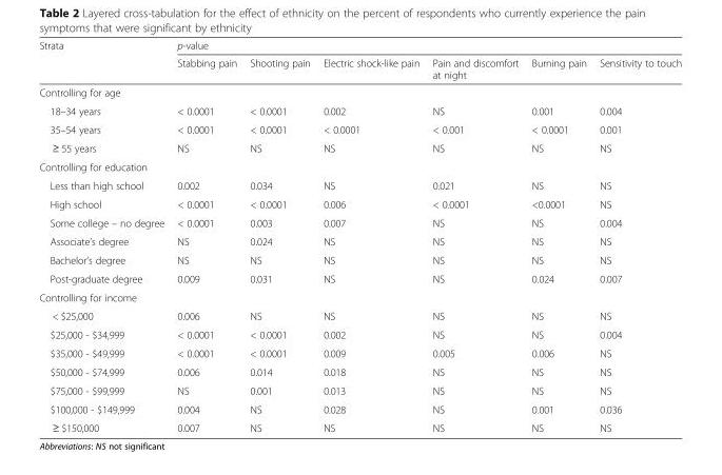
<table><thead><tr><td rowspan="2">Strata</td><td colspan="6">p-value</td></tr><tr><td>Stabbing pain</td><td>Shooting pain</td><td>Electric shock-like pain</td><td>Pain and discomfort at night</td><td>Burning pain</td><td>Sensitivity to touch</td></tr></thead><tbody><tr><td colspan="7">Controlling for age</td></tr><tr><td>18–34 years</td><td>&lt; 0.0001</td><td>&lt; 0.0001</td><td>0.002</td><td>NS</td><td>0.001</td><td>0.004</td></tr><tr><td>35–54 years</td><td>&lt; 0.0001</td><td>&lt; 0.0001</td><td>&lt; 0.0001</td><td>&lt; 0.001</td><td>&lt; 0.0001</td><td>0.001</td></tr><tr><td>≥ 55 years</td><td>NS</td><td>NS</td><td>NS</td><td>NS</td><td>NS</td><td>NS</td></tr><tr><td colspan="7">Controlling for education</td></tr><tr><td>Less than high school</td><td>0.002</td><td>0.034</td><td>NS</td><td>0.021</td><td>NS</td><td>NS</td></tr><tr><td>High school</td><td>&lt; 0.0001</td><td>&lt; 0.0001</td><td>0.006</td><td>&lt; 0.0001</td><td>&lt;0.0001</td><td>NS</td></tr><tr><td>Some college – no degree</td><td>&lt; 0.0001</td><td>0.003</td><td>0.007</td><td>NS</td><td>NS</td><td>0.004</td></tr><tr><td>Associate’s degree</td><td>NS</td><td>0.024</td><td>NS</td><td>NS</td><td>NS</td><td>NS</td></tr><tr><td>Bachelor’s degree</td><td>NS</td><td>NS</td><td>NS</td><td>NS</td><td>NS</td><td>NS</td></tr><tr><td>Post-graduate degree</td><td>0.009</td><td>0.031</td><td>NS</td><td>NS</td><td>0.024</td><td>0.007</td></tr><tr><td colspan="7">Controlling for income</td></tr><tr><td>&lt; $25,000</td><td>0.006</td><td>NS</td><td>NS</td><td>NS</td><td>NS</td><td>NS</td></tr><tr><td>$25,000 - $34,999</td><td>&lt; 0.0001</td><td>&lt; 0.0001</td><td>0.002</td><td>NS</td><td>NS</td><td>0.004</td></tr><tr><td>$35,000 - $49,999</td><td>&lt; 0.0001</td><td>&lt; 0.0001</td><td>0.009</td><td>0.005</td><td>0.006</td><td>NS</td></tr><tr><td>$50,000 - $74,999</td><td>0.006</td><td>0.014</td><td>0.018</td><td>NS</td><td>NS</td><td>NS</td></tr><tr><td>$75,000 - $99,999</td><td>NS</td><td>0.001</td><td>0.013</td><td>NS</td><td>NS</td><td>NS</td></tr><tr><td>$100,000 - $149,999</td><td>0.004</td><td>NS</td><td>0.028</td><td>NS</td><td>0.001</td><td>0.036</td></tr><tr><td>≥ $150,000</td><td>0.007</td><td>NS</td><td>NS</td><td>NS</td><td>NS</td><td>NS</td></tr></tbody></table>